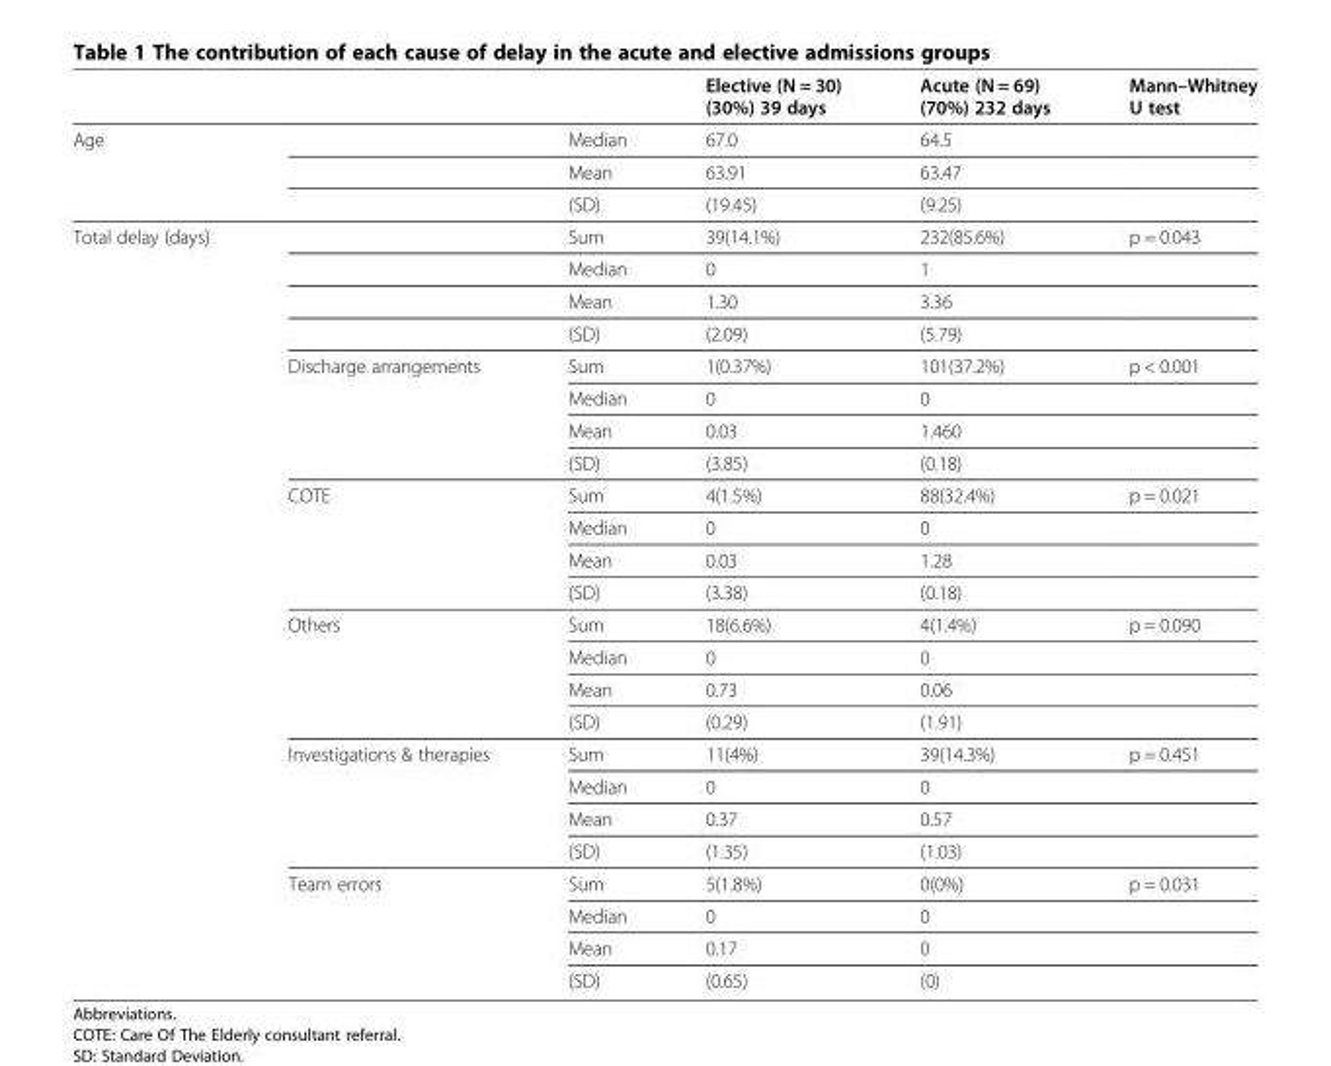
<table><thead><tr><td></td><td></td><td></td><td>Elective (N = 30) (30%) 39 days</td><td>Acute (N = 69) (70%) 232 days</td><td>Mann–Whitney U test</td></tr></thead><tbody><tr><td rowspan="3">Age</td><td></td><td>Median</td><td>67.0</td><td>64.5</td><td></td></tr><tr><td></td><td>Mean</td><td>63.91</td><td>63.47</td><td></td></tr><tr><td></td><td>(SD)</td><td>(19.45)</td><td>(9.25)</td><td></td></tr><tr><td rowspan="24">Total delay (days)</td><td></td><td>Sum</td><td>39(14.1%)</td><td>232(85.6%)</td><td>p = 0.043</td></tr><tr><td></td><td>Median</td><td>0</td><td>1</td><td></td></tr><tr><td></td><td>Mean</td><td>1.30</td><td>3.36</td><td></td></tr><tr><td></td><td>(SD)</td><td>(2.09)</td><td>(5.79)</td><td></td></tr><tr><td>Discharge arrangements</td><td>Sum</td><td>1(0.37%)</td><td>101(37.2%)</td><td>p &lt; 0.001</td></tr><tr><td></td><td>Median</td><td>0</td><td>0</td><td></td></tr><tr><td></td><td>Mean</td><td>0.03</td><td>1.460</td><td></td></tr><tr><td></td><td>(SD)</td><td>(3.85)</td><td>(0.18)</td><td></td></tr><tr><td>COTE</td><td>Sum</td><td>4(1.5%)</td><td>88(32.4%)</td><td>p = 0.021</td></tr><tr><td></td><td>Median</td><td>0</td><td>0</td><td></td></tr><tr><td></td><td>Mean</td><td>0.03</td><td>1.28</td><td></td></tr><tr><td></td><td>(SD)</td><td>(3.38)</td><td>(0.18)</td><td></td></tr><tr><td>Others</td><td>Sum</td><td>18(6.6%)</td><td>4(1.4%)</td><td>p = 0.090</td></tr><tr><td></td><td>Median</td><td>0</td><td>0</td><td></td></tr><tr><td></td><td>Mean</td><td>0.73</td><td>0.06</td><td></td></tr><tr><td></td><td>(SD)</td><td>(0.29)</td><td>(1.91)</td><td></td></tr><tr><td>Investigations &amp; therapies</td><td>Sum</td><td>11(4%)</td><td>39(14.3%)</td><td>p = 0.451</td></tr><tr><td></td><td>Median</td><td>0</td><td>0</td><td></td></tr><tr><td></td><td>Mean</td><td>0.37</td><td>0.57</td><td></td></tr><tr><td></td><td>(SD)</td><td>(1.35)</td><td>(1.03)</td><td></td></tr><tr><td>Team errors</td><td>Sum</td><td>5(1.8%)</td><td>0(0%)</td><td>p = 0.031</td></tr><tr><td></td><td>Median</td><td>0</td><td>0</td><td></td></tr><tr><td></td><td>Mean</td><td>0.17</td><td>0</td><td></td></tr><tr><td></td><td>(SD)</td><td>(0.65)</td><td>(0)</td><td></td></tr></tbody></table>